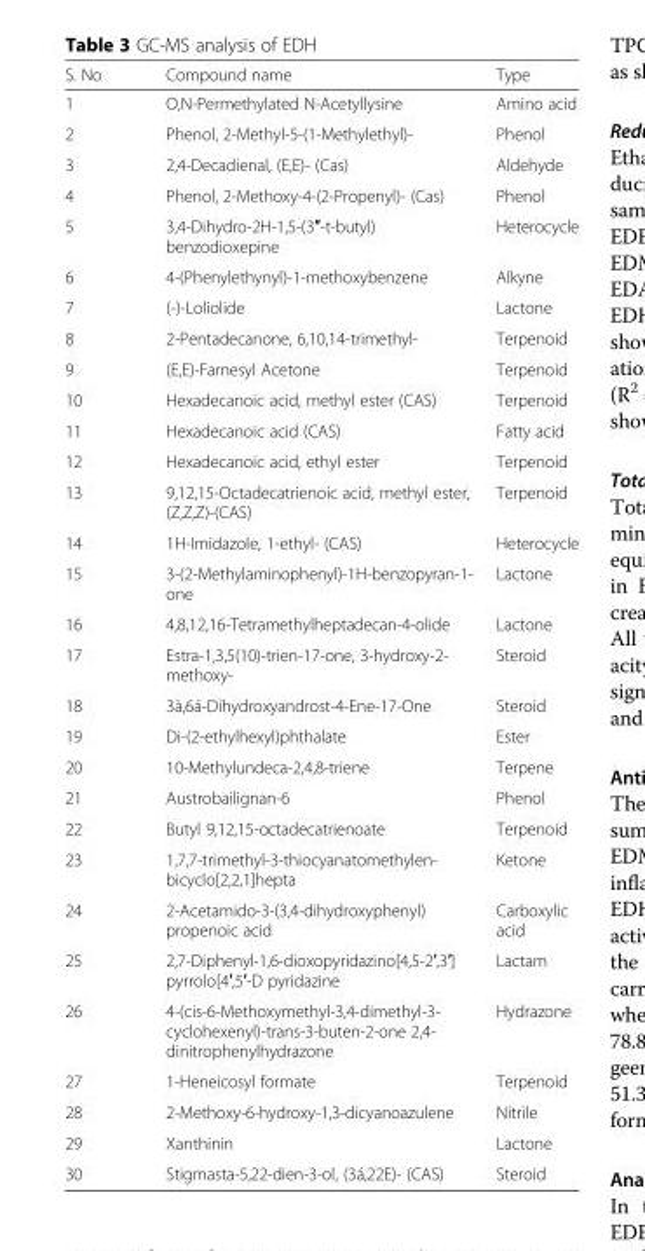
<table><thead><tr><td>S. No</td><td>Compound name</td><td>Type</td></tr></thead><tbody><tr><td>1</td><td>O,N-Permethylated N-Acetyllysine</td><td>Amino acid</td></tr><tr><td>2</td><td>Phenol, 2-Methyl-5-(1-Methylethyl)-</td><td>Phenol</td></tr><tr><td>3</td><td>2,4-Decadienal, (E,E)- (Cas)</td><td>Aldehyde</td></tr><tr><td>4</td><td>Phenol, 2-Methoxy-4-(2-Propenyl)- (Cas)</td><td>Phenol</td></tr><tr><td>5</td><td>3,4-Dihydro-2H-1,5-(3″-t-butyl) benzodioxepine</td><td>Heterocycle</td></tr><tr><td>6</td><td>4-(Phenylethynyl)-1-methoxybenzene</td><td>Alkyne</td></tr><tr><td>7</td><td>(-)-Loliolide</td><td>Lactone</td></tr><tr><td>8</td><td>2-Pentadecanone, 6,10,14-trimethyl-</td><td>Terpenoid</td></tr><tr><td>9</td><td>(E,E)-Farnesyl Acetone</td><td>Terpenoid</td></tr><tr><td>10</td><td>Hexadecanoic acid, methyl ester (CAS)</td><td>Terpenoid</td></tr><tr><td>11</td><td>Hexadecanoic acid (CAS)</td><td>Fatty acid</td></tr><tr><td>12</td><td>Hexadecanoic acid, ethyl ester</td><td>Terpenoid</td></tr><tr><td>13</td><td>9,12,15-Octadecatrienoic acid, methyl ester, (Z,Z,Z)-(CAS)</td><td>Terpenoid</td></tr><tr><td>14</td><td>1H-Imidazole, 1-ethyl- (CAS)</td><td>Heterocycle</td></tr><tr><td>15</td><td>3-(2-Methylaminophenyl)-1H-benzopyran-1- one</td><td>Lactone</td></tr><tr><td>16</td><td>4,8,12,16-Tetramethylheptadecan-4-olide</td><td>Lactone</td></tr><tr><td>17</td><td>Estra-1,3,5(10)-trien-17-one, 3-hydroxy-2- methoxy-</td><td>Steroid</td></tr><tr><td>18</td><td>3à,6á-Dihydroxyandrost-4-Ene-17-One</td><td>Steroid</td></tr><tr><td>19</td><td>Di-(2-ethylhexyl)phthalate</td><td>Ester</td></tr><tr><td>20</td><td>10-Methylundeca-2,4,8-triene</td><td>Terpene</td></tr><tr><td>21</td><td>Austrobailignan-6</td><td>Phenol</td></tr><tr><td>22</td><td>Butyl 9,12,15-octadecatrienoate</td><td>Terpenoid</td></tr><tr><td>23</td><td>1,7,7-trimethyl-3-thiocyanatomethylen- bicyclo[2,2,1]hepta</td><td>Ketone</td></tr><tr><td>24</td><td>2-Acetamido-3-(3,4-dihydroxyphenyl) propenoic acid</td><td>Carboxylic acid</td></tr><tr><td>25</td><td>2,7-Diphenyl-1,6-dioxopyridazino[4,5-2′,3′] pyrrolo[4′,5′-D pyridazine</td><td>Lactam</td></tr><tr><td>26</td><td>4-(cis-6-Methoxymethyl-3,4-dimethyl-3- cyclohexenyl)-trans-3-buten-2-one 2,4- dinitrophenylhydrazone</td><td>Hydrazone</td></tr><tr><td>27</td><td>1-Heneicosyl formate</td><td>Terpenoid</td></tr><tr><td>28</td><td>2-Methoxy-6-hydroxy-1,3-dicyanoazulene</td><td>Nitrile</td></tr><tr><td>29</td><td>Xanthinin</td><td>Lactone</td></tr><tr><td>30</td><td>Stigmasta-5,22-dien-3-ol, (3á,22E)- (CAS)</td><td>Steroid</td></tr></tbody></table>